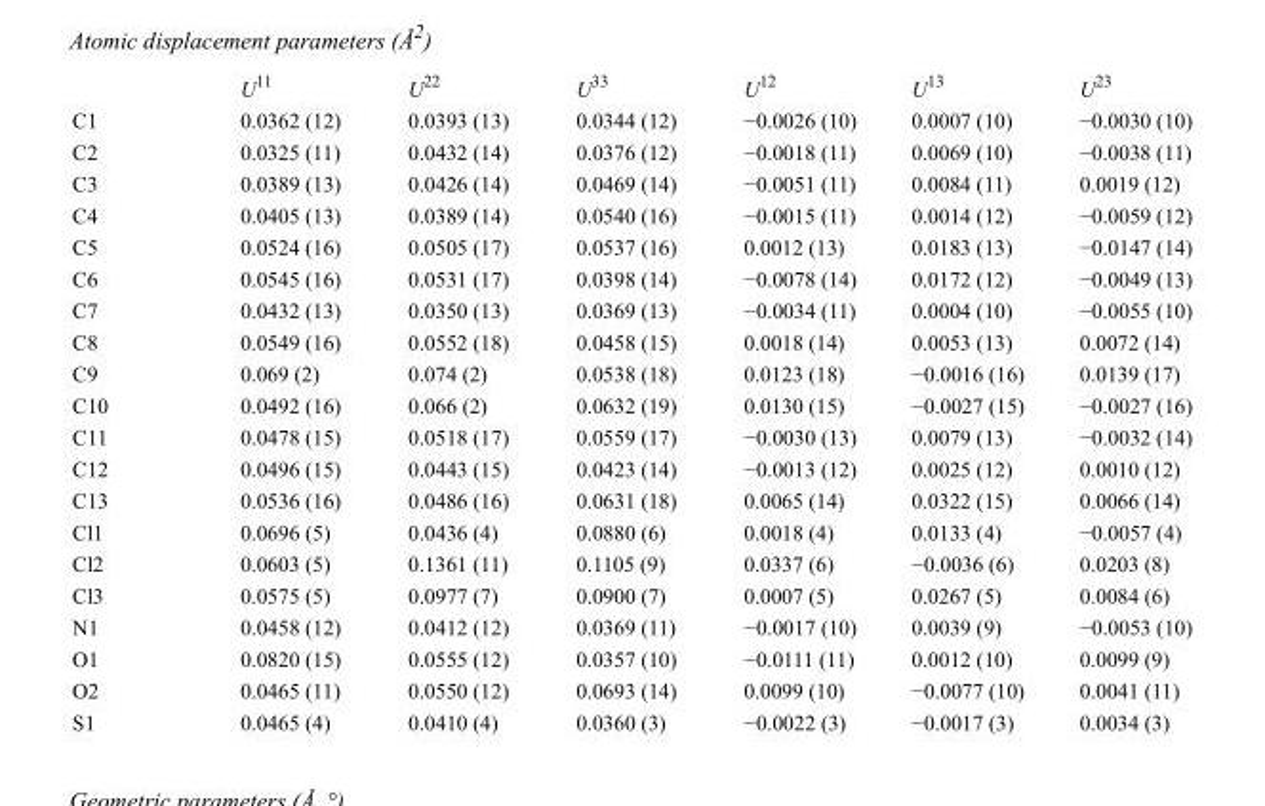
<table><thead><tr><td></td><td>U<sup>11</sup></td><td>U<sup>22</sup></td><td>U<sup>33</sup></td><td>U<sup>12</sup></td><td>U<sup>13</sup></td><td>U<sup>23</sup></td></tr></thead><tbody><tr><td>C1</td><td>0.0362 (12)</td><td>0.0393 (13)</td><td>0.0344 (12)</td><td>−0.0026 (10)</td><td>0.0007 (10)</td><td>−0.0030 (10)</td></tr><tr><td>C2</td><td>0.0325 (11)</td><td>0.0432 (14)</td><td>0.0376 (12)</td><td>−0.0018 (11)</td><td>0.0069 (10)</td><td>−0.0038 (11)</td></tr><tr><td>C3</td><td>0.0389 (13)</td><td>0.0426 (14)</td><td>0.0469 (14)</td><td>−0.0051 (11)</td><td>0.0084 (11)</td><td>0.0019 (12)</td></tr><tr><td>C4</td><td>0.0405 (13)</td><td>0.0389 (14)</td><td>0.0540 (16)</td><td>−0.0015 (11)</td><td>0.0014 (12)</td><td>−0.0059 (12)</td></tr><tr><td>C5</td><td>0.0524 (16)</td><td>0.0505 (17)</td><td>0.0537 (16)</td><td>0.0012 (13)</td><td>0.0183 (13)</td><td>−0.0147 (14)</td></tr><tr><td>C6</td><td>0.0545 (16)</td><td>0.0531 (17)</td><td>0.0398 (14)</td><td>−0.0078 (14)</td><td>0.0172 (12)</td><td>−0.0049 (13)</td></tr><tr><td>C7</td><td>0.0432 (13)</td><td>0.0350 (13)</td><td>0.0369 (13)</td><td>−0.0034 (11)</td><td>0.0004 (10)</td><td>−0.0055 (10)</td></tr><tr><td>C8</td><td>0.0549 (16)</td><td>0.0552 (18)</td><td>0.0458 (15)</td><td>0.0018 (14)</td><td>0.0053 (13)</td><td>0.0072 (14)</td></tr><tr><td>C9</td><td>0.069 (2)</td><td>0.074 (2)</td><td>0.0538 (18)</td><td>0.0123 (18)</td><td>−0.0016 (16)</td><td>0.0139 (17)</td></tr><tr><td>C10</td><td>0.0492 (16)</td><td>0.066 (2)</td><td>0.0632 (19)</td><td>0.0130 (15)</td><td>−0.0027 (15)</td><td>−0.0027 (16)</td></tr><tr><td>C11</td><td>0.0478 (15)</td><td>0.0518 (17)</td><td>0.0559 (17)</td><td>−0.0030 (13)</td><td>0.0079 (13)</td><td>−0.0032 (14)</td></tr><tr><td>C12</td><td>0.0496 (15)</td><td>0.0443 (15)</td><td>0.0423 (14)</td><td>−0.0013 (12)</td><td>0.0025 (12)</td><td>0.0010 (12)</td></tr><tr><td>C13</td><td>0.0536 (16)</td><td>0.0486 (16)</td><td>0.0631 (18)</td><td>0.0065 (14)</td><td>0.0322 (15)</td><td>0.0066 (14)</td></tr><tr><td>Cl1</td><td>0.0696 (5)</td><td>0.0436 (4)</td><td>0.0880 (6)</td><td>0.0018 (4)</td><td>0.0133 (4)</td><td>−0.0057 (4)</td></tr><tr><td>Cl2</td><td>0.0603 (5)</td><td>0.1361 (11)</td><td>0.1105 (9)</td><td>0.0337 (6)</td><td>−0.0036 (6)</td><td>0.0203 (8)</td></tr><tr><td>Cl3</td><td>0.0575 (5)</td><td>0.0977 (7)</td><td>0.0900 (7)</td><td>0.0007 (5)</td><td>0.0267 (5)</td><td>0.0084 (6)</td></tr><tr><td>N1</td><td>0.0458 (12)</td><td>0.0412 (12)</td><td>0.0369 (11)</td><td>−0.0017 (10)</td><td>0.0039 (9)</td><td>−0.0053 (10)</td></tr><tr><td>O1</td><td>0.0820 (15)</td><td>0.0555 (12)</td><td>0.0357 (10)</td><td>−0.0111 (11)</td><td>0.0012 (10)</td><td>0.0099 (9)</td></tr><tr><td>O2</td><td>0.0465 (11)</td><td>0.0550 (12)</td><td>0.0693 (14)</td><td>0.0099 (10)</td><td>−0.0077 (10)</td><td>0.0041 (11)</td></tr><tr><td>S1</td><td>0.0465 (4)</td><td>0.0410 (4)</td><td>0.0360 (3)</td><td>−0.0022 (3)</td><td>−0.0017 (3)</td><td>0.0034 (3)</td></tr></tbody></table>